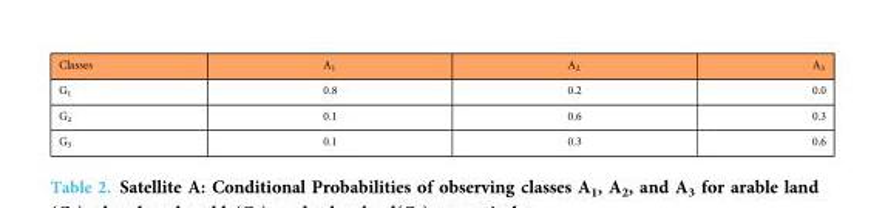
<table><thead><tr><td>Classes</td><td>A<sub>1</sub></td><td>A<sub>2</sub></td><td>A<sub>3</sub></td></tr></thead><tbody><tr><td>G<sub>1</sub></td><td>0.8</td><td>0.2</td><td>0.0</td></tr><tr><td>G<sub>2</sub></td><td>0.1</td><td>0.6</td><td>0.3</td></tr><tr><td>G<sub>3</sub></td><td>0.1</td><td>0.3</td><td>0.6</td></tr></tbody></table>